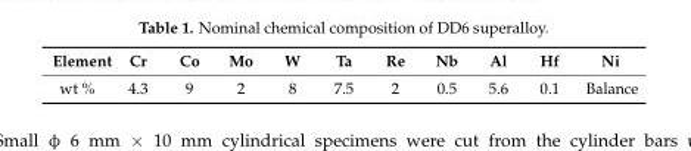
<table><thead><tr><td>Element</td><td>Cr</td><td>Co</td><td>Mo</td><td>W</td><td>Ta</td><td>Re</td><td>Nb</td><td>Al</td><td>Hf</td><td>Ni</td></tr></thead><tbody><tr><td>wt %</td><td>4.3</td><td>9</td><td>2</td><td>8</td><td>7.5</td><td>2</td><td>0.5</td><td>5.6</td><td>0.1</td><td>Balance</td></tr></tbody></table>